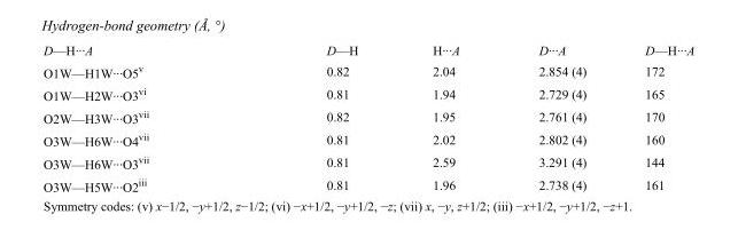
<table><tbody><tr><td>D—H···A</td><td>D—H</td><td>H···A</td><td>D···A</td><td>D—H···A</td></tr><tr><td>O1W—H1W···O5<sup>v</sup></td><td>0.82</td><td>2.04</td><td>2.854 (4)</td><td>172</td></tr><tr><td>O1W—H2W···O3<sup>vi</sup></td><td>0.81</td><td>1.94</td><td>2.729 (4)</td><td>165</td></tr><tr><td>O2W—H3W···O3<sup>vii</sup></td><td>0.82</td><td>1.95</td><td>2.761 (4)</td><td>170</td></tr><tr><td>O3W—H6W···O4<sup>vii</sup></td><td>0.81</td><td>2.02</td><td>2.802 (4)</td><td>160</td></tr><tr><td>O3W—H6W···O3<sup>vii</sup></td><td>0.81</td><td>2.59</td><td>3.291 (4)</td><td>144</td></tr><tr><td>O3W—H5W···O2<sup>iii</sup></td><td>0.81</td><td>1.96</td><td>2.738 (4)</td><td>161</td></tr></tbody></table>